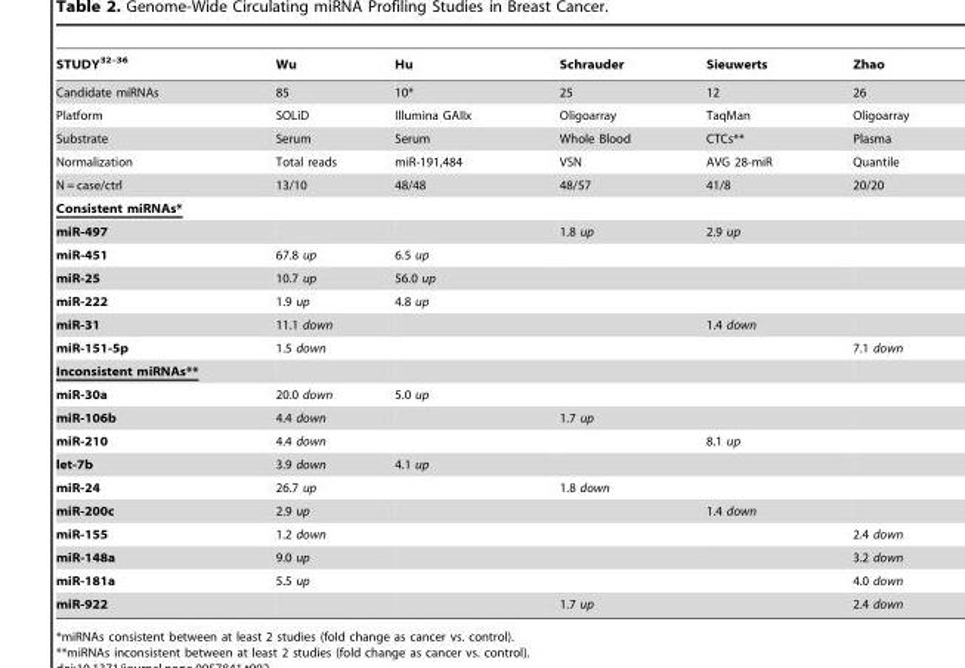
<table><thead><tr><td>STUDY<sup>32–36</sup></td><td>Wu</td><td>Hu</td><td>Schrauder</td><td>Sieuwerts</td><td>Zhao</td></tr></thead><tbody><tr><td>Candidate miRNAs</td><td>85</td><td>10*</td><td>25</td><td>12</td><td>26</td></tr><tr><td>Platform</td><td>SOLiD</td><td>Illumina GAIIx</td><td>Oligoarray</td><td>TaqMan</td><td>Oligoarray</td></tr><tr><td>Substrate</td><td>Serum</td><td>Serum</td><td>Whole Blood</td><td>CTCs**</td><td>Plasma</td></tr><tr><td>Normalization</td><td>Total reads</td><td>miR-191,484</td><td>VSN</td><td>AVG 28-miR</td><td>Quantile</td></tr><tr><td>N = case/ctrl</td><td>13/10</td><td>48/48</td><td>48/57</td><td>41/8</td><td>20/20</td></tr><tr><td colspan="6">Consistent miRNAs*</td></tr><tr><td>miR-497</td><td></td><td></td><td>1.8 up</td><td>2.9 up</td><td></td></tr><tr><td>miR-451</td><td>67.8 up</td><td>6.5 up</td><td></td><td></td><td></td></tr><tr><td>miR-25</td><td>10.7 up</td><td>56.0 up</td><td></td><td></td><td></td></tr><tr><td>miR-222</td><td>1.9 up</td><td>4.8 up</td><td></td><td></td><td></td></tr><tr><td>miR-31</td><td>11.1 down</td><td></td><td></td><td>1.4 down</td><td></td></tr><tr><td>miR-151-5p</td><td>1.5 down</td><td></td><td></td><td></td><td>7.1 down</td></tr><tr><td colspan="6">Inconsistent miRNAs**</td></tr><tr><td>miR-30a</td><td>20.0 down</td><td>5.0 up</td><td></td><td></td><td></td></tr><tr><td>miR-106b</td><td>4.4 down</td><td></td><td>1.7 up</td><td></td><td></td></tr><tr><td>miR-210</td><td>4.4 down</td><td></td><td></td><td>8.1 up</td><td></td></tr><tr><td>let-7b</td><td>3.9 down</td><td>4.1 up</td><td></td><td></td><td></td></tr><tr><td>miR-24</td><td>26.7 up</td><td></td><td>1.8 down</td><td></td><td></td></tr><tr><td>miR-200c</td><td>2.9 up</td><td></td><td></td><td>1.4 down</td><td></td></tr><tr><td>miR-155</td><td>1.2 down</td><td></td><td></td><td></td><td>2.4 down</td></tr><tr><td>miR-148a</td><td>9.0 up</td><td></td><td></td><td></td><td>3.2 down</td></tr><tr><td>miR-181a</td><td>5.5 up</td><td></td><td></td><td></td><td>4.0 down</td></tr><tr><td>miR-922</td><td></td><td></td><td>1.7 up</td><td></td><td>2.4 down</td></tr></tbody></table>